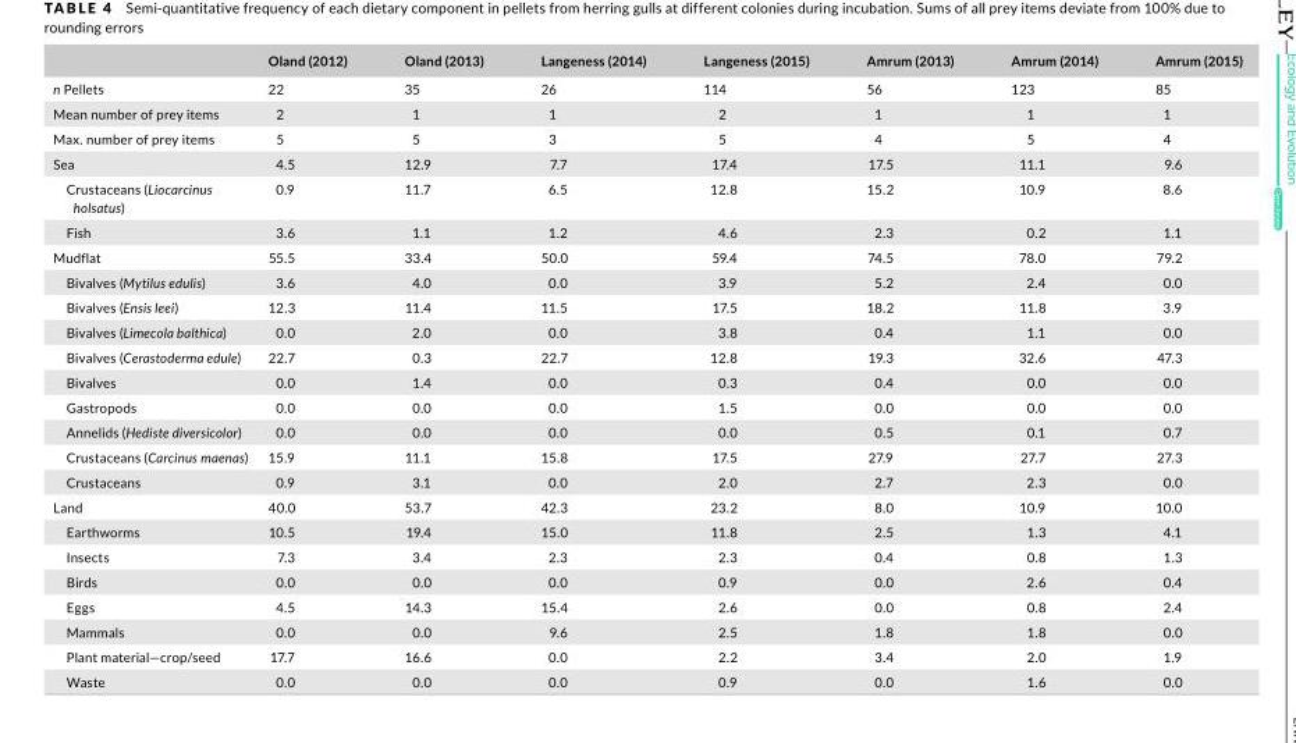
<table><thead><tr><td></td><td>Oland (2012)</td><td>Oland (2013)</td><td>Langeness (2014)</td><td>Langeness (2015)</td><td>Amrum (2013)</td><td>Amrum (2014)</td><td>Amrum (2015)</td></tr></thead><tbody><tr><td>n Pellets</td><td>22</td><td>35</td><td>26</td><td>114</td><td>56</td><td>123</td><td>85</td></tr><tr><td>Mean number of prey items</td><td>2</td><td>1</td><td>1</td><td>2</td><td>1</td><td>1</td><td>1</td></tr><tr><td>Max. number of prey items</td><td>5</td><td>5</td><td>3</td><td>5</td><td>4</td><td>5</td><td>4</td></tr><tr><td>Sea</td><td>4.5</td><td>12.9</td><td>7.7</td><td>17.4</td><td>17.5</td><td>11.1</td><td>9.6</td></tr><tr><td>Crustaceans (Liocarcinus holsatus)</td><td>0.9</td><td>11.7</td><td>6.5</td><td>12.8</td><td>15.2</td><td>10.9</td><td>8.6</td></tr><tr><td>Fish</td><td>3.6</td><td>1.1</td><td>1.2</td><td>4.6</td><td>2.3</td><td>0.2</td><td>1.1</td></tr><tr><td>Mudflat</td><td>55.5</td><td>33.4</td><td>50.0</td><td>59.4</td><td>74.5</td><td>78.0</td><td>79.2</td></tr><tr><td>Bivalves (Mytilus edulis)</td><td>3.6</td><td>4.0</td><td>0.0</td><td>3.9</td><td>5.2</td><td>2.4</td><td>0.0</td></tr><tr><td>Bivalves (Ensis leei)</td><td>12.3</td><td>11.4</td><td>11.5</td><td>17.5</td><td>18.2</td><td>11.8</td><td>3.9</td></tr><tr><td>Bivalves (Limecola balthica)</td><td>0.0</td><td>2.0</td><td>0.0</td><td>3.8</td><td>0.4</td><td>1.1</td><td>0.0</td></tr><tr><td>Bivalves (Cerastoderma edule)</td><td>22.7</td><td>0.3</td><td>22.7</td><td>12.8</td><td>19.3</td><td>32.6</td><td>47.3</td></tr><tr><td>Bivalves</td><td>0.0</td><td>1.4</td><td>0.0</td><td>0.3</td><td>0.4</td><td>0.0</td><td>0.0</td></tr><tr><td>Gastropods</td><td>0.0</td><td>0.0</td><td>0.0</td><td>1.5</td><td>0.0</td><td>0.0</td><td>0.0</td></tr><tr><td>Annelids (Hediste diversicolor)</td><td>0.0</td><td>0.0</td><td>0.0</td><td>0.0</td><td>0.5</td><td>0.1</td><td>0.7</td></tr><tr><td>Crustaceans (Carcinus maenas)</td><td>15.9</td><td>11.1</td><td>15.8</td><td>17.5</td><td>27.9</td><td>27.7</td><td>27.3</td></tr><tr><td>Crustaceans</td><td>0.9</td><td>3.1</td><td>0.0</td><td>2.0</td><td>2.7</td><td>2.3</td><td>0.0</td></tr><tr><td>Land</td><td>40.0</td><td>53.7</td><td>42.3</td><td>23.2</td><td>8.0</td><td>10.9</td><td>10.0</td></tr><tr><td>Earthworms</td><td>10.5</td><td>19.4</td><td>15.0</td><td>11.8</td><td>2.5</td><td>1.3</td><td>4.1</td></tr><tr><td>Insects</td><td>7.3</td><td>3.4</td><td>2.3</td><td>2.3</td><td>0.4</td><td>0.8</td><td>1.3</td></tr><tr><td>Birds</td><td>0.0</td><td>0.0</td><td>0.0</td><td>0.9</td><td>0.0</td><td>2.6</td><td>0.4</td></tr><tr><td>Eggs</td><td>4.5</td><td>14.3</td><td>15.4</td><td>2.6</td><td>0.0</td><td>0.8</td><td>2.4</td></tr><tr><td>Mammals</td><td>0.0</td><td>0.0</td><td>9.6</td><td>2.5</td><td>1.8</td><td>1.8</td><td>0.0</td></tr><tr><td>Plant material—crop/seed</td><td>17.7</td><td>16.6</td><td>0.0</td><td>2.2</td><td>3.4</td><td>2.0</td><td>1.9</td></tr><tr><td>Waste</td><td>0.0</td><td>0.0</td><td>0.0</td><td>0.9</td><td>0.0</td><td>1.6</td><td>0.0</td></tr></tbody></table>